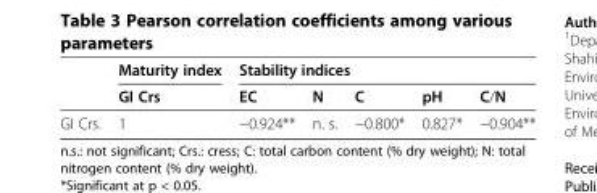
<table><thead><tr><td rowspan="2"></td><td rowspan="2">Maturity index GI Crs</td><td colspan="5">Stability indices</td></tr><tr><td>EC</td><td>N</td><td>C</td><td>pH</td><td>C/N</td></tr></thead><tbody><tr><td>GI Crs.</td><td>1</td><td>−0.924**</td><td>n. s.</td><td>−0.800*</td><td>0.827*</td><td>−0.904**</td></tr></tbody></table>